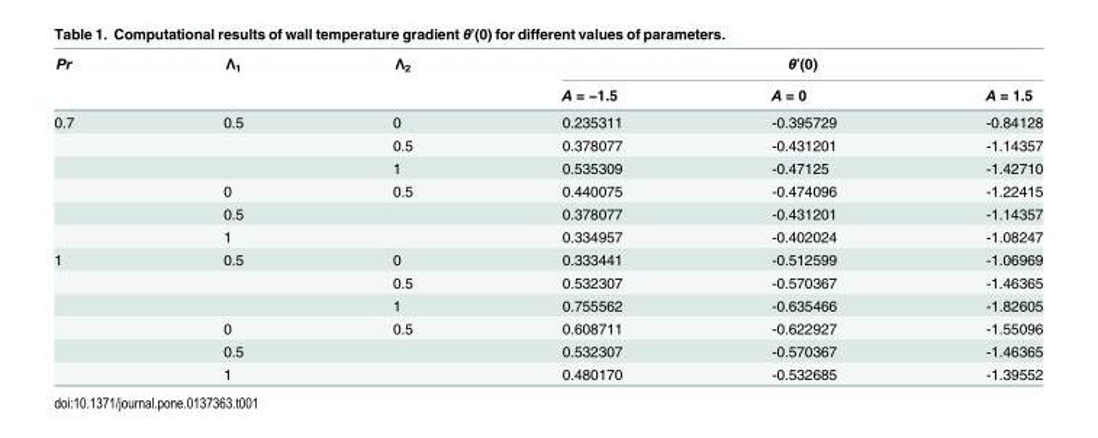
<table><thead><tr><td rowspan="2">Pr</td><td rowspan="2">Λ<sub>1</sub></td><td rowspan="2">Λ<sub>2</sub></td><td colspan="3">θ’(0)</td></tr><tr><td>A = −1.5</td><td>A = 0</td><td>A = 1.5</td></tr></thead><tbody><tr><td rowspan="6">0.7</td><td>0.5</td><td>0</td><td>0.235311</td><td>-0.395729</td><td>-0.84128</td></tr><tr><td></td><td>0.5</td><td>0.378077</td><td>-0.431201</td><td>-1.14357</td></tr><tr><td></td><td>1</td><td>0.535309</td><td>-0.47125</td><td>-1.42710</td></tr><tr><td>0</td><td>0.5</td><td>0.440075</td><td>-0.474096</td><td>-1.22415</td></tr><tr><td>0.5</td><td></td><td>0.378077</td><td>-0.431201</td><td>-1.14357</td></tr><tr><td>1</td><td></td><td>0.334957</td><td>-0.402024</td><td>-1.08247</td></tr><tr><td rowspan="6">1</td><td>0.5</td><td>0</td><td>0.333441</td><td>-0.512599</td><td>-1.06969</td></tr><tr><td></td><td>0.5</td><td>0.532307</td><td>-0.570367</td><td>-1.46365</td></tr><tr><td></td><td>1</td><td>0.755562</td><td>-0.635466</td><td>-1.82605</td></tr><tr><td>0</td><td>0.5</td><td>0.608711</td><td>-0.622927</td><td>-1.55096</td></tr><tr><td>0.5</td><td></td><td>0.532307</td><td>-0.570367</td><td>-1.46365</td></tr><tr><td>1</td><td></td><td>0.480170</td><td>-0.532685</td><td>-1.39552</td></tr></tbody></table>